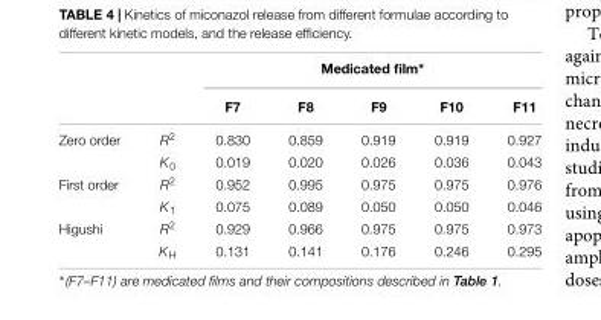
<table><thead><tr><td rowspan="2"></td><td rowspan="2"></td><td colspan="5">Medicated film∗</td></tr><tr><td>F7</td><td>F8</td><td>F9</td><td>F10</td><td>F11</td></tr></thead><tbody><tr><td rowspan="2">Zero order</td><td>R<sup>2</sup></td><td>0.830</td><td>0.859</td><td>0.919</td><td>0.919</td><td>0.927</td></tr><tr><td>K<sub>0</sub></td><td>0.019</td><td>0.020</td><td>0.026</td><td>0.036</td><td>0.043</td></tr><tr><td rowspan="2">First order</td><td>R<sup>2</sup></td><td>0.952</td><td>0.995</td><td>0.975</td><td>0.975</td><td>0.976</td></tr><tr><td>K<sub>1</sub></td><td>0.075</td><td>0.089</td><td>0.050</td><td>0.050</td><td>0.046</td></tr><tr><td rowspan="2">Higushi</td><td>R<sup>2</sup></td><td>0.929</td><td>0.966</td><td>0.975</td><td>0.975</td><td>0.973</td></tr><tr><td>K<sub>H</sub></td><td>0.131</td><td>0.141</td><td>0.176</td><td>0.246</td><td>0.295</td></tr></tbody></table>